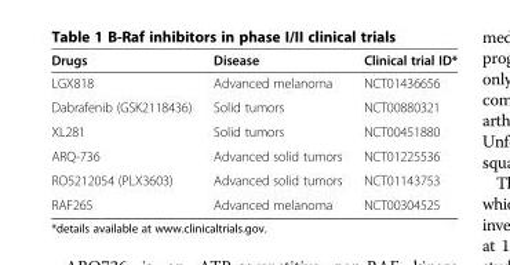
<table><thead><tr><td>Drugs</td><td>Disease</td><td>Clinical trial ID*</td></tr></thead><tbody><tr><td>LGX818</td><td>Advanced melanoma</td><td>NCT01436656</td></tr><tr><td>Dabrafenib (GSK2118436)</td><td>Solid tumors</td><td>NCT00880321</td></tr><tr><td>XL281</td><td>Solid tumors</td><td>NCT00451880</td></tr><tr><td>ARQ-736</td><td>Advanced solid tumors</td><td>NCT01225536</td></tr><tr><td>RO5212054 (PLX3603)</td><td>Advanced solid tumors</td><td>NCT01143753</td></tr><tr><td>RAF265</td><td>Advanced melanoma</td><td>NCT00304525</td></tr></tbody></table>